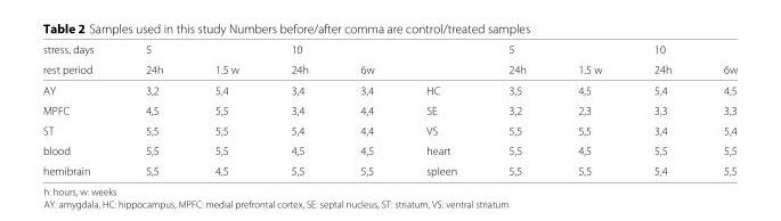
<table><thead><tr><td rowspan="2">stress, days rest period</td><td colspan="2">5</td><td colspan="2">10</td><td rowspan="2"></td><td colspan="2">5</td><td colspan="2">10</td></tr><tr><td>24h</td><td>1.5 w</td><td>24h</td><td>6w</td><td>24h</td><td>1.5 w</td><td>24h</td><td>6w</td></tr></thead><tbody><tr><td>AY</td><td>3,2</td><td>5,4</td><td>3,4</td><td>3,4</td><td>HC</td><td>3,5</td><td>4,5</td><td>5,4</td><td>4,5</td></tr><tr><td>MPFC</td><td>4,5</td><td>5,5</td><td>3,4</td><td>4,4</td><td>SE</td><td>3,2</td><td>2,3</td><td>3,3</td><td>3,3</td></tr><tr><td>ST</td><td>5,5</td><td>5,5</td><td>5,4</td><td>4,4</td><td>VS</td><td>5,5</td><td>5,5</td><td>3,4</td><td>5,4</td></tr><tr><td>blood</td><td>5,5</td><td>5,5</td><td>4,5</td><td>4,5</td><td>heart</td><td>5,5</td><td>4,5</td><td>5,5</td><td>5,5</td></tr><tr><td>hemibrain</td><td>5,5</td><td>4,5</td><td>5,5</td><td>5,5</td><td>spleen</td><td>5,5</td><td>5,5</td><td>5,4</td><td>5,5</td></tr></tbody></table>